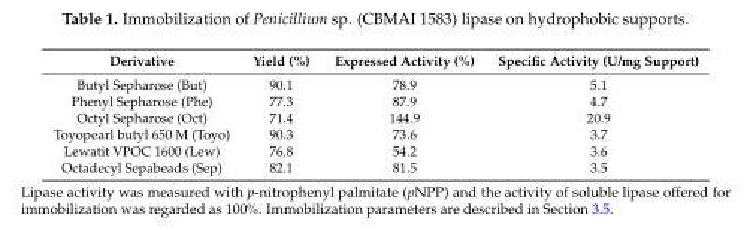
<table><thead><tr><td>Derivative</td><td>Yield (%)</td><td>Expressed Activity (%)</td><td>Specific Activity (U/mg Support)</td></tr></thead><tbody><tr><td>Butyl Sepharose (But)</td><td>90.1</td><td>78.9</td><td>5.1</td></tr><tr><td>Phenyl Sepharose (Phe)</td><td>77.3</td><td>87.9</td><td>4.7</td></tr><tr><td>Octyl Sepharose (Oct)</td><td>71.4</td><td>144.9</td><td>20.9</td></tr><tr><td>Toyopearl butyl 650 M (Toyo)</td><td>90.3</td><td>73.6</td><td>3.7</td></tr><tr><td>Lewatit VPOC 1600 (Lew)</td><td>76.8</td><td>54.2</td><td>3.6</td></tr><tr><td>Octadecyl Sepabeads (Sep)</td><td>82.1</td><td>81.5</td><td>3.5</td></tr></tbody></table>